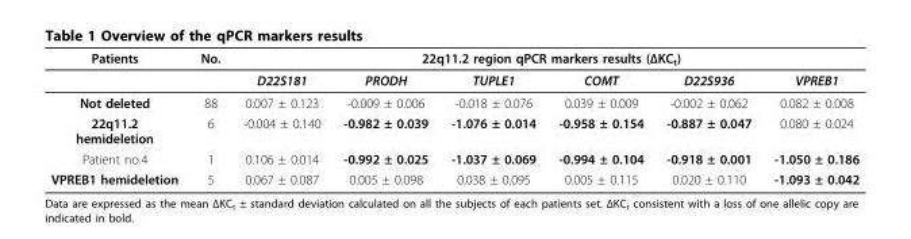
<table><thead><tr><td rowspan="2">Patients</td><td rowspan="2">No.</td><td colspan="6">22q11.2 region qPCR markers results (ΔKC<sub>t</sub>)</td></tr><tr><td>D22S181</td><td>PRODH</td><td>TUPLE1</td><td>COMT</td><td>D22S936</td><td>VPREB1</td></tr></thead><tbody><tr><td>Not deleted</td><td>88</td><td>0.007 ± 0.123</td><td>-0.009 ± 0.006</td><td>-0.018 ± 0.076</td><td>0.039 ± 0.009</td><td>-0.002 ± 0.062</td><td>0.082 ± 0.008</td></tr><tr><td>22q11.2 hemideletion</td><td>6</td><td>-0.004 ± 0.140</td><td>-0.982 ± 0.039</td><td>-1.076 ± 0.014</td><td>-0.958 ± 0.154</td><td>-0.887 ± 0.047</td><td>0.080 ± 0.024</td></tr><tr><td>Patient no.4</td><td>1</td><td>0.106 ± 0.014</td><td>-0.992 ± 0.025</td><td>-1.037 ± 0.069</td><td>-0.994 ± 0.104</td><td>-0.918 ± 0.001</td><td>-1.050 ± 0.186</td></tr><tr><td>VPREB1 hemideletion</td><td>5</td><td>0.067 ± 0.087</td><td>0.005 ± 0.098</td><td>0.038 ± 0.095</td><td>0.005 ± 0.115</td><td>0.020 ± 0.110</td><td>-1.093 ± 0.042</td></tr></tbody></table>